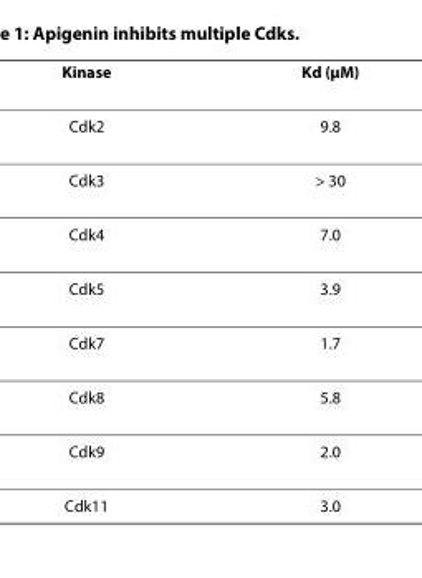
<table><thead><tr><td>Kinase</td><td>Kd (μM)</td></tr></thead><tbody><tr><td>Cdk2</td><td>9.8</td></tr><tr><td>Cdk3</td><td>&gt; 30</td></tr><tr><td>Cdk4</td><td>7.0</td></tr><tr><td>Cdk5</td><td>3.9</td></tr><tr><td>Cdk7</td><td>1.7</td></tr><tr><td>Cdk8</td><td>5.8</td></tr><tr><td>Cdk9</td><td>2.0</td></tr><tr><td>Cdk11</td><td>3.0</td></tr></tbody></table>